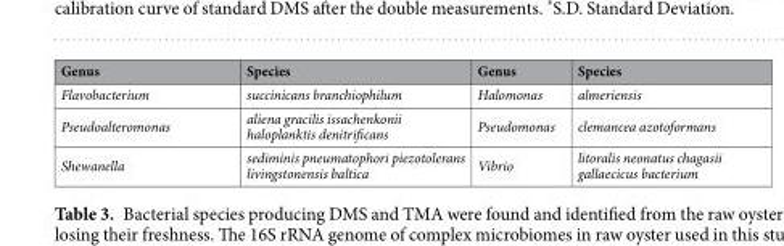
<table><thead><tr><td>Genus</td><td>Species</td><td>Genus</td><td>Species</td></tr></thead><tbody><tr><td>Flavobacterium</td><td>succinicans branchiophilum</td><td>Halomonas</td><td>almeriensis</td></tr><tr><td>Pseudoalteromonas</td><td>aliena gracilis issachenkonii haloplanktis denitrificans</td><td>Pseudomonas</td><td>clemancea azotoformans</td></tr><tr><td>Shewanella</td><td>sediminis pneumatophori piezotolerans livingstonensis baltica</td><td>Vibrio</td><td>litoralis neonatus chagasii gallaecicus bacterium</td></tr></tbody></table>